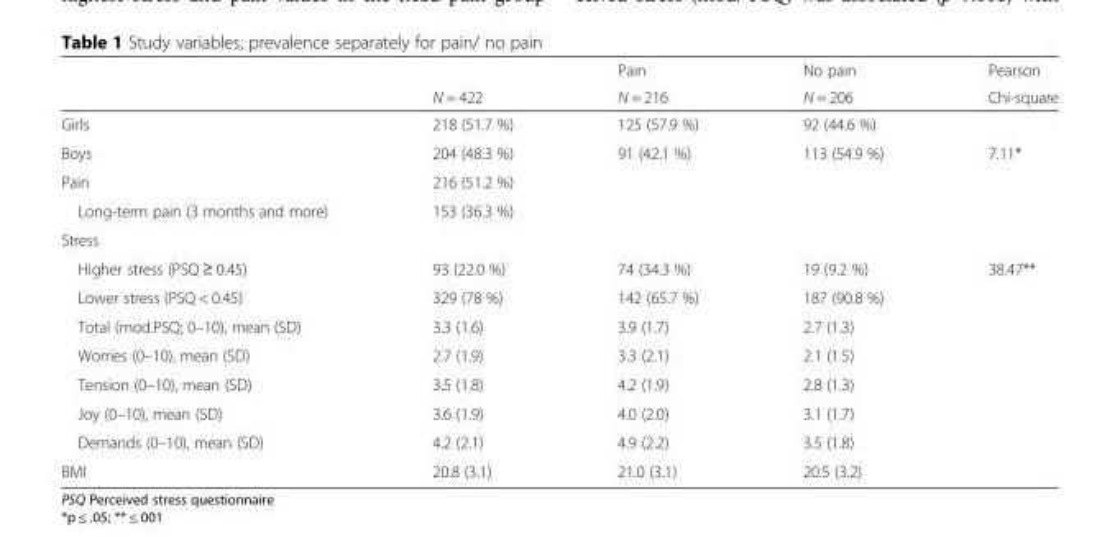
<table><thead><tr><td rowspan="2"></td><td rowspan="2">N = 422</td><td rowspan="2">Pain N = 216</td><td rowspan="2">No pain N = 206</td><td rowspan="2">Pearson Chi-square</td></tr><tr></tr></thead><tbody><tr><td>Girls</td><td>218 (51.7 %)</td><td>125 (57.9 %)</td><td>92 (44.6 %)</td><td></td></tr><tr><td>Boys</td><td>204 (48.3 %)</td><td>91 (42.1 %)</td><td>113 (54.9 %)</td><td>7.11*</td></tr><tr><td>Pain</td><td>216 (51.2 %)</td><td></td><td></td><td></td></tr><tr><td>Long-term pain (3 months and more)</td><td>153 (36.3 %)</td><td></td><td></td><td></td></tr><tr><td colspan="5">Stress</td></tr><tr><td>Higher stress (PSQ ≥ 0.45)</td><td>93 (22.0 %)</td><td>74 (34.3 %)</td><td>19 (9.2 %)</td><td>38.47**</td></tr><tr><td>Lower stress (PSQ &lt; 0.45)</td><td>329 (78 %)</td><td>142 (65.7 %)</td><td>187 (90.8 %)</td><td></td></tr><tr><td>Total (mod.PSQ; 0–10), mean (SD)</td><td>3.3 (1.6)</td><td>3.9 (1.7)</td><td>2.7 (1.3)</td><td></td></tr><tr><td>Worries (0–10), mean (SD)</td><td>2.7 (1.9)</td><td>3.3 (2.1)</td><td>2.1 (1.5)</td><td></td></tr><tr><td>Tension (0–10), mean (SD)</td><td>3.5 (1.8)</td><td>4.2 (1.9)</td><td>2.8 (1.3)</td><td></td></tr><tr><td>Joy (0–10), mean (SD)</td><td>3.6 (1.9)</td><td>4.0 (2.0)</td><td>3.1 (1.7)</td><td></td></tr><tr><td>Demands (0–10), mean (SD)</td><td>4.2 (2.1)</td><td>4.9 (2.2)</td><td>3.5 (1.8)</td><td></td></tr><tr><td>BMI</td><td>20.8 (3.1)</td><td>21.0 (3.1)</td><td>20.5 (3.2)</td><td></td></tr></tbody></table>